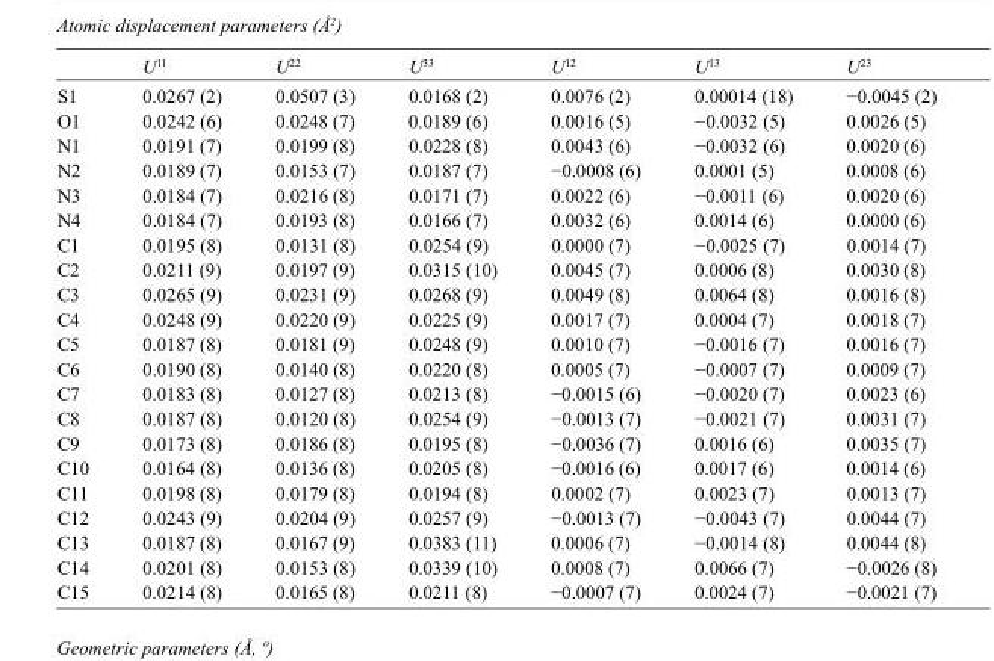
<table><thead><tr><td></td><td>U<sup>11</sup></td><td>U<sup>22</sup></td><td>U<sup>33</sup></td><td>U<sup>12</sup></td><td>U<sup>13</sup></td><td>U<sup>23</sup></td></tr></thead><tbody><tr><td>S1</td><td>0.0267 (2)</td><td>0.0507 (3)</td><td>0.0168 (2)</td><td>0.0076 (2)</td><td>0.00014 (18)</td><td>−0.0045 (2)</td></tr><tr><td>O1</td><td>0.0242 (6)</td><td>0.0248 (7)</td><td>0.0189 (6)</td><td>0.0016 (5)</td><td>−0.0032 (5)</td><td>0.0026 (5)</td></tr><tr><td>N1</td><td>0.0191 (7)</td><td>0.0199 (8)</td><td>0.0228 (8)</td><td>0.0043 (6)</td><td>−0.0032 (6)</td><td>0.0020 (6)</td></tr><tr><td>N2</td><td>0.0189 (7)</td><td>0.0153 (7)</td><td>0.0187 (7)</td><td>−0.0008 (6)</td><td>0.0001 (5)</td><td>0.0008 (6)</td></tr><tr><td>N3</td><td>0.0184 (7)</td><td>0.0216 (8)</td><td>0.0171 (7)</td><td>0.0022 (6)</td><td>−0.0011 (6)</td><td>0.0020 (6)</td></tr><tr><td>N4</td><td>0.0184 (7)</td><td>0.0193 (8)</td><td>0.0166 (7)</td><td>0.0032 (6)</td><td>0.0014 (6)</td><td>0.0000 (6)</td></tr><tr><td>C1</td><td>0.0195 (8)</td><td>0.0131 (8)</td><td>0.0254 (9)</td><td>0.0000 (7)</td><td>−0.0025 (7)</td><td>0.0014 (7)</td></tr><tr><td>C2</td><td>0.0211 (9)</td><td>0.0197 (9)</td><td>0.0315 (10)</td><td>0.0045 (7)</td><td>0.0006 (8)</td><td>0.0030 (8)</td></tr><tr><td>C3</td><td>0.0265 (9)</td><td>0.0231 (9)</td><td>0.0268 (9)</td><td>0.0049 (8)</td><td>0.0064 (8)</td><td>0.0016 (8)</td></tr><tr><td>C4</td><td>0.0248 (9)</td><td>0.0220 (9)</td><td>0.0225 (9)</td><td>0.0017 (7)</td><td>0.0004 (7)</td><td>0.0018 (7)</td></tr><tr><td>C5</td><td>0.0187 (8)</td><td>0.0181 (9)</td><td>0.0248 (9)</td><td>0.0010 (7)</td><td>−0.0016 (7)</td><td>0.0016 (7)</td></tr><tr><td>C6</td><td>0.0190 (8)</td><td>0.0140 (8)</td><td>0.0220 (8)</td><td>0.0005 (7)</td><td>−0.0007 (7)</td><td>0.0009 (7)</td></tr><tr><td>C7</td><td>0.0183 (8)</td><td>0.0127 (8)</td><td>0.0213 (8)</td><td>−0.0015 (6)</td><td>−0.0020 (7)</td><td>0.0023 (6)</td></tr><tr><td>C8</td><td>0.0187 (8)</td><td>0.0120 (8)</td><td>0.0254 (9)</td><td>−0.0013 (7)</td><td>−0.0021 (7)</td><td>0.0031 (7)</td></tr><tr><td>C9</td><td>0.0173 (8)</td><td>0.0186 (8)</td><td>0.0195 (8)</td><td>−0.0036 (7)</td><td>0.0016 (6)</td><td>0.0035 (7)</td></tr><tr><td>C10</td><td>0.0164 (8)</td><td>0.0136 (8)</td><td>0.0205 (8)</td><td>−0.0016 (6)</td><td>0.0017 (6)</td><td>0.0014 (6)</td></tr><tr><td>C11</td><td>0.0198 (8)</td><td>0.0179 (8)</td><td>0.0194 (8)</td><td>0.0002 (7)</td><td>0.0023 (7)</td><td>0.0013 (7)</td></tr><tr><td>C12</td><td>0.0243 (9)</td><td>0.0204 (9)</td><td>0.0257 (9)</td><td>−0.0013 (7)</td><td>−0.0043 (7)</td><td>0.0044 (7)</td></tr><tr><td>C13</td><td>0.0187 (8)</td><td>0.0167 (9)</td><td>0.0383 (11)</td><td>0.0006 (7)</td><td>−0.0014 (8)</td><td>0.0044 (8)</td></tr><tr><td>C14</td><td>0.0201 (8)</td><td>0.0153 (8)</td><td>0.0339 (10)</td><td>0.0008 (7)</td><td>0.0066 (7)</td><td>−0.0026 (8)</td></tr><tr><td>C15</td><td>0.0214 (8)</td><td>0.0165 (8)</td><td>0.0211 (8)</td><td>−0.0007 (7)</td><td>0.0024 (7)</td><td>−0.0021 (7)</td></tr></tbody></table>